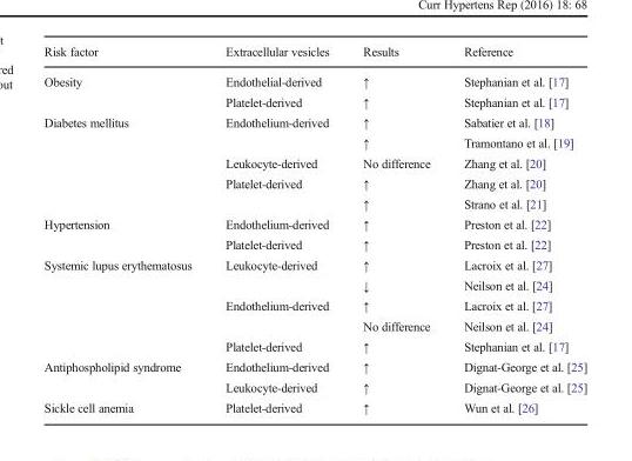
<table><thead><tr><td>Risk factor</td><td>Extracellular vesicles</td><td>Results</td><td>Reference</td></tr></thead><tbody><tr><td rowspan="2">Obesity</td><td>Endothelial-derived</td><td>↑</td><td>Stephanian et al. [17]</td></tr><tr><td>Platelet-derived</td><td>↑</td><td>Stephanian et al. [17]</td></tr><tr><td rowspan="5">Diabetes mellitus</td><td rowspan="2">Endothelium-derived</td><td>↑</td><td>Sabatier et al. [18]</td></tr><tr><td>↑</td><td>Tramontano et al. [19]</td></tr><tr><td>Leukocyte-derived</td><td>No difference</td><td>Zhang et al. [20]</td></tr><tr><td rowspan="2">Platelet-derived</td><td>↑</td><td>Zhang et al. [20]</td></tr><tr><td>↑</td><td>Strano et al. [21]</td></tr><tr><td rowspan="2">Hypertension</td><td>Endothelium-derived</td><td>↑</td><td>Preston et al. [22]</td></tr><tr><td>Platelet-derived</td><td>↑</td><td>Preston et al. [22]</td></tr><tr><td rowspan="5">Systemic lupus erythematosus</td><td rowspan="2">Leukocyte-derived</td><td>↑</td><td>Lacroix et al. [27]</td></tr><tr><td>↓</td><td>Neilson et al. [24]</td></tr><tr><td rowspan="2">Endothelium-derived</td><td>↑</td><td>Lacroix et al. [27]</td></tr><tr><td>No difference</td><td>Neilson et al. [24]</td></tr><tr><td>Platelet-derived</td><td>↑</td><td>Stephanian et al. [17]</td></tr><tr><td rowspan="2">Antiphospholipid syndrome</td><td>Endothelium-derived</td><td>↑</td><td>Dignat-George et al. [25]</td></tr><tr><td>Leukocyte-derived</td><td>↑</td><td>Dignat-George et al. [25]</td></tr><tr><td>Sickle cell anemia</td><td>Platelet-derived</td><td>↑</td><td>Wun et al. [26]</td></tr></tbody></table>